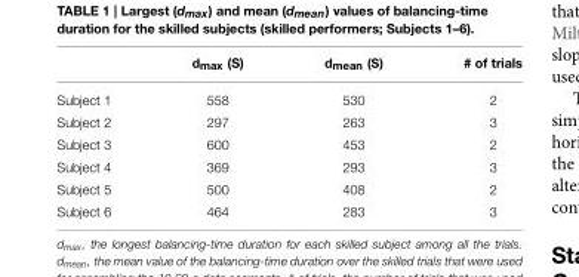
<table><thead><tr><td></td><td>d<sub>max</sub> (S)</td><td>d<sub>mean</sub> (S)</td><td># of trials</td></tr></thead><tbody><tr><td>Subject 1</td><td>558</td><td>530</td><td>2</td></tr><tr><td>Subject 2</td><td>297</td><td>263</td><td>3</td></tr><tr><td>Subject 3</td><td>600</td><td>453</td><td>2</td></tr><tr><td>Subject 4</td><td>369</td><td>293</td><td>3</td></tr><tr><td>Subject 5</td><td>500</td><td>408</td><td>2</td></tr><tr><td>Subject 6</td><td>464</td><td>283</td><td>3</td></tr></tbody></table>